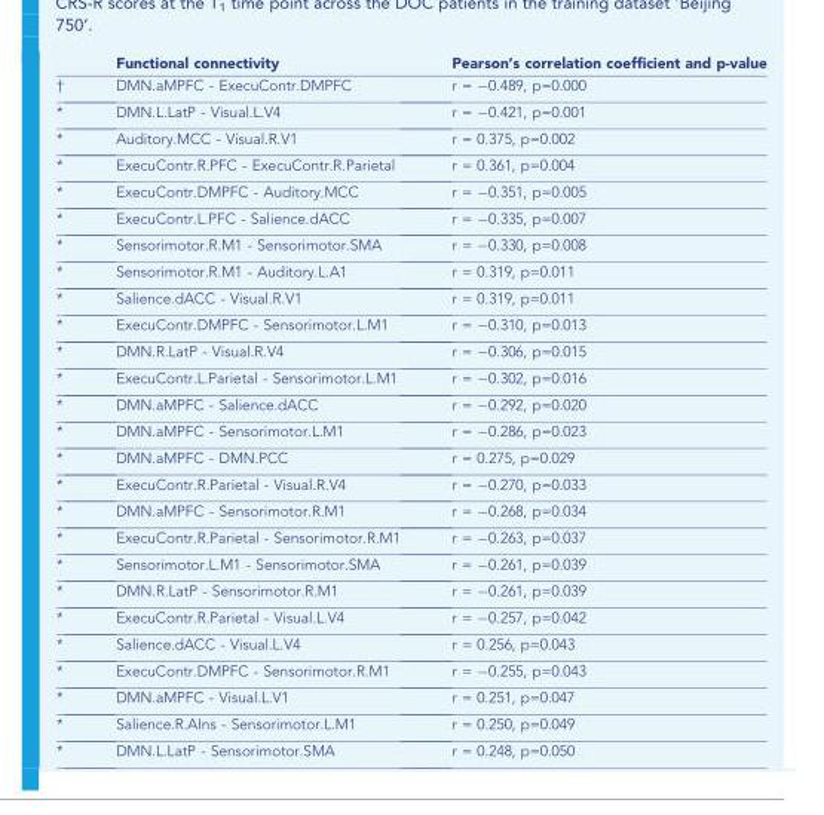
<table><thead><tr><td></td><td>Functional connectivity</td><td>Pearson’s correlation coefficient and p-value</td></tr></thead><tbody><tr><td>†</td><td>DMN.aMPFC - ExecuContr.DMPFC</td><td>r = −0.489, p=0.000</td></tr><tr><td>*</td><td>DMN.L.LatP - Visual.L.V4</td><td>r = −0.421, p=0.001</td></tr><tr><td>*</td><td>Auditory.MCC - Visual.R.V1</td><td>r = 0.375, p=0.002</td></tr><tr><td>*</td><td>ExecuContr.R.PFC - ExecuContr.R.Parietal</td><td>r = 0.361, p=0.004</td></tr><tr><td>*</td><td>ExecuContr.DMPFC - Auditory.MCC</td><td>r = −0.351, p=0.005</td></tr><tr><td>*</td><td>ExecuContr.L.PFC - Salience.dACC</td><td>r = −0.335, p=0.007</td></tr><tr><td>*</td><td>Sensorimotor.R.M1 - Sensorimotor.SMA</td><td>r = −0.330, p=0.008</td></tr><tr><td>*</td><td>Sensorimotor.R.M1 - Auditory.L.A1</td><td>r = 0.319, p=0.011</td></tr><tr><td>*</td><td>Salience.dACC - Visual.R.V1</td><td>r = 0.319, p=0.011</td></tr><tr><td>*</td><td>ExecuContr.DMPFC - Sensorimotor.L.M1</td><td>r = −0.310, p=0.013</td></tr><tr><td>*</td><td>DMN.R.LatP - Visual.R.V4</td><td>r = −0.306, p=0.015</td></tr><tr><td>*</td><td>ExecuContr.L.Parietal - Sensorimotor.L.M1</td><td>r = −0.302, p=0.016</td></tr><tr><td>*</td><td>DMN.aMPFC - Salience.dACC</td><td>r = −0.292, p=0.020</td></tr><tr><td>*</td><td>DMN.aMPFC - Sensorimotor.L.M1</td><td>r = −0.286, p=0.023</td></tr><tr><td>*</td><td>DMN.aMPFC - DMN.PCC</td><td>r = 0.275, p=0.029</td></tr><tr><td>*</td><td>ExecuContr.R.Parietal - Visual.R.V4</td><td>r = −0.270, p=0.033</td></tr><tr><td>*</td><td>DMN.aMPFC - Sensorimotor.R.M1</td><td>r = −0.268, p=0.034</td></tr><tr><td>*</td><td>ExecuContr.R.Parietal - Sensorimotor.R.M1</td><td>r = −0.263, p=0.037</td></tr><tr><td>*</td><td>Sensorimotor.L.M1 - Sensorimotor.SMA</td><td>r = −0.261, p=0.039</td></tr><tr><td>*</td><td>DMN.R.LatP - Sensorimotor.R.M1</td><td>r = −0.261, p=0.039</td></tr><tr><td>*</td><td>ExecuContr.R.Parietal - Visual.L.V4</td><td>r = −0.257, p=0.042</td></tr><tr><td>*</td><td>Salience.dACC - Visual.L.V4</td><td>r = 0.256, p=0.043</td></tr><tr><td>*</td><td>ExecuContr.DMPFC - Sensorimotor.R.M1</td><td>r = −0.255, p=0.043</td></tr><tr><td>*</td><td>DMN.aMPFC - Visual.L.V1</td><td>r = 0.251, p=0.047</td></tr><tr><td>*</td><td>Salience.R.AIns - Sensorimotor.L.M1</td><td>r = 0.250, p=0.049</td></tr><tr><td>*</td><td>DMN.L.LatP - Sensorimotor.SMA</td><td>r = 0.248, p=0.050</td></tr></tbody></table>